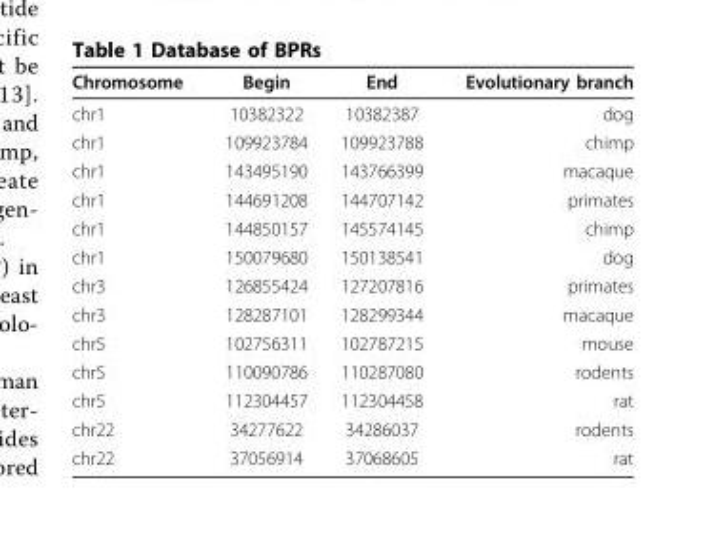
<table><thead><tr><td>Chromosome</td><td>Begin</td><td>End</td><td>Evolutionary branch</td></tr></thead><tbody><tr><td>chr1</td><td>10382322</td><td>10382387</td><td>dog</td></tr><tr><td>chr1</td><td>109923784</td><td>109923788</td><td>chimp</td></tr><tr><td>chr1</td><td>143495190</td><td>143766399</td><td>macaque</td></tr><tr><td>chr1</td><td>144691208</td><td>144707142</td><td>primates</td></tr><tr><td>chr1</td><td>144850157</td><td>145574145</td><td>chimp</td></tr><tr><td>chr1</td><td>150079680</td><td>150138541</td><td>dog</td></tr><tr><td>chr3</td><td>126855424</td><td>127207816</td><td>primates</td></tr><tr><td>chr3</td><td>128287101</td><td>128299344</td><td>macaque</td></tr><tr><td>chr5</td><td>102756311</td><td>102787215</td><td>mouse</td></tr><tr><td>chr5</td><td>110090786</td><td>110287080</td><td>rodents</td></tr><tr><td>chr5</td><td>112304457</td><td>112304458</td><td>rat</td></tr><tr><td>chr22</td><td>34277622</td><td>34286037</td><td>rodents</td></tr><tr><td>chr22</td><td>37056914</td><td>37068605</td><td>rat</td></tr></tbody></table>